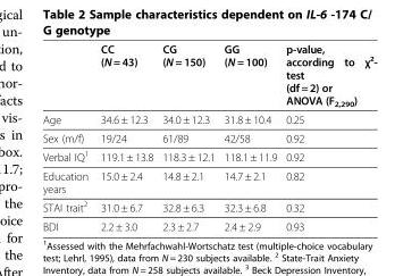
<table><thead><tr><td></td><td>CC (N = 43)</td><td>CG (N = 150)</td><td>GG (N = 100)</td><td>p-value, according to χ²- test (df = 2) or ANOVA (F<sub>2,290</sub>)</td></tr></thead><tbody><tr><td>Age</td><td>34.6 ± 12.3</td><td>34.0 ± 12.3</td><td>31.8 ± 10.4</td><td>0.25</td></tr><tr><td>Sex (m/f)</td><td>19/24</td><td>61/89</td><td>42/58</td><td>0.92</td></tr><tr><td>Verbal IQ<sup>1</sup></td><td>119.1 ± 13.8</td><td>118.3 ± 12.1</td><td>118.1 ± 11.9</td><td>0.92</td></tr><tr><td>Education years</td><td>15.0 ± 2.4</td><td>14.8 ± 2.1</td><td>14.7 ± 2.1</td><td>0.82</td></tr><tr><td>STAI trait<sup>2</sup></td><td>31.0 ± 6.7</td><td>32.8 ± 6.3</td><td>32.3 ± 6.8</td><td>0.32</td></tr><tr><td>BDI</td><td>2.2 ± 3.0</td><td>2.3 ± 2.7</td><td>2.4 ± 2.9</td><td>0.93</td></tr></tbody></table>